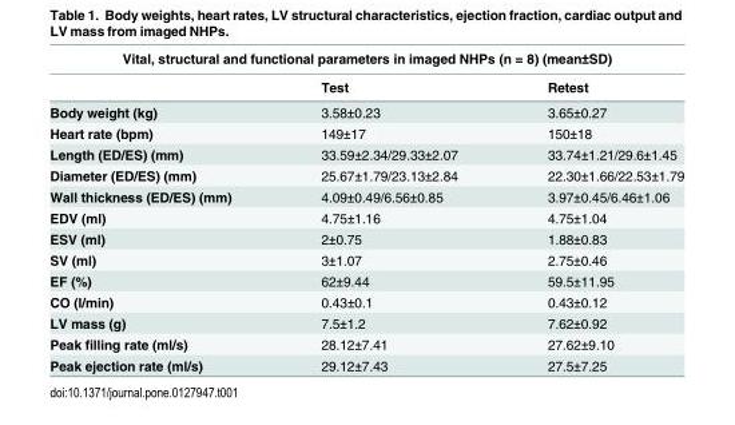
<table><thead><tr><td colspan="3">Vital, structural and functional parameters in imaged NHPs (n = 8) (mean±SD)</td></tr><tr><td></td><td>Test</td><td>Retest</td></tr></thead><tbody><tr><td>Body weight (kg)</td><td>3.58±0.23</td><td>3.65±0.27</td></tr><tr><td>Heart rate (bpm)</td><td>149±17</td><td>150±18</td></tr><tr><td>Length (ED/ES) (mm)</td><td>33.59±2.34/29.33±2.07</td><td>33.74±1.21/29.6±1.45</td></tr><tr><td>Diameter (ED/ES) (mm)</td><td>25.67±1.79/23.13±2.84</td><td>22.30±1.66/22.53±1.79</td></tr><tr><td>Wall thickness (ED/ES) (mm)</td><td>4.09±0.49/6.56±0.85</td><td>3.97±0.45/6.46±1.06</td></tr><tr><td>EDV (ml)</td><td>4.75±1.16</td><td>4.75±1.04</td></tr><tr><td>ESV (ml)</td><td>2±0.75</td><td>1.88±0.83</td></tr><tr><td>SV (ml)</td><td>3±1.07</td><td>2.75±0.46</td></tr><tr><td>EF (%)</td><td>62±9.44</td><td>59.5±11.95</td></tr><tr><td>CO (l/min)</td><td>0.43±0.1</td><td>0.43±0.12</td></tr><tr><td>LV mass (g)</td><td>7.5±1.2</td><td>7.62±0.92</td></tr><tr><td>Peak filling rate (ml/s)</td><td>28.12±7.41</td><td>27.62±9.10</td></tr><tr><td>Peak ejection rate (ml/s)</td><td>29.12±7.43</td><td>27.5±7.25</td></tr></tbody></table>